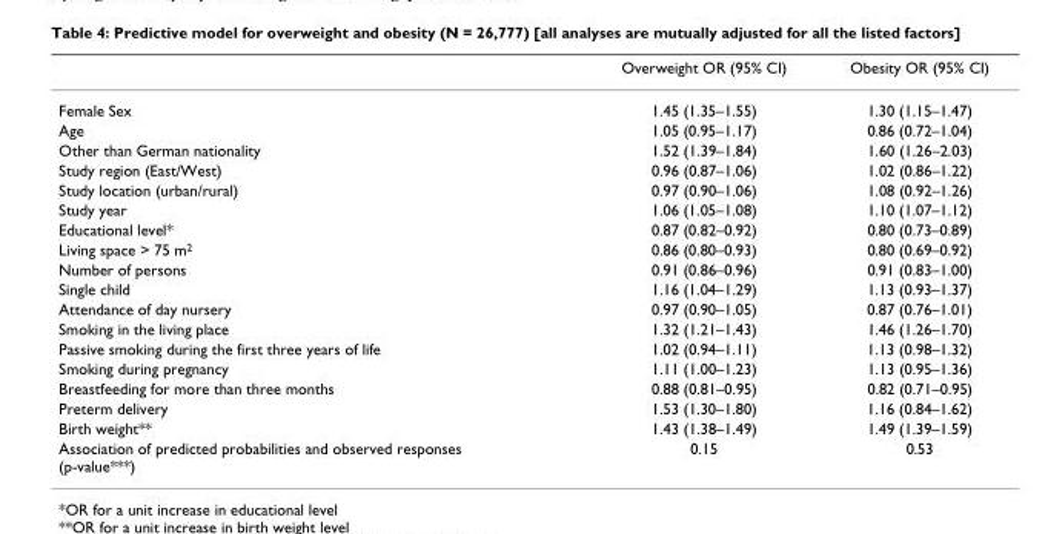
<table><thead><tr><td></td><td>Overweight OR (95% CI)</td><td>Obesity OR (95% CI)</td></tr></thead><tbody><tr><td>Female Sex</td><td>1.45 (1.35–1.55)</td><td>1.30 (1.15–1.47)</td></tr><tr><td>Age</td><td>1.05 (0.95–1.17)</td><td>0.86 (0.72–1.04)</td></tr><tr><td>Other than German nationality</td><td>1.52 (1.39–1.84)</td><td>1.60 (1.26–2.03)</td></tr><tr><td>Study region (East/West)</td><td>0.96 (0.87–1.06)</td><td>1.02 (0.86–1.22)</td></tr><tr><td>Study location (urban/rural)</td><td>0.97 (0.90–1.06)</td><td>1.08 (0.92–1.26)</td></tr><tr><td>Study year</td><td>1.06 (1.05–1.08)</td><td>1.10 (1.07–1.12)</td></tr><tr><td>Educational level*</td><td>0.87 (0.82–0.92)</td><td>0.80 (0.73–0.89)</td></tr><tr><td>Living space &gt; 75 m<sup>2</sup></td><td>0.86 (0.80–0.93)</td><td>0.80 (0.69–0.92)</td></tr><tr><td>Number of persons</td><td>0.91 (0.86–0.96)</td><td>0.91 (0.83–1.00)</td></tr><tr><td>Single child</td><td>1.16 (1.04–1.29)</td><td>1.13 (0.93–1.37)</td></tr><tr><td>Attendance of day nursery</td><td>0.97 (0.90–1.05)</td><td>0.87 (0.76–1.01)</td></tr><tr><td>Smoking in the living place</td><td>1.32 (1.21–1.43)</td><td>1.46 (1.26–1.70)</td></tr><tr><td>Passive smoking during the first three years of life</td><td>1.02 (0.94–1.11)</td><td>1.13 (0.98–1.32)</td></tr><tr><td>Smoking during pregnancy</td><td>1.11 (1.00–1.23)</td><td>1.13 (0.95–1.36)</td></tr><tr><td>Breastfeeding for more than three months</td><td>0.88 (0.81–0.95)</td><td>0.82 (0.71–0.95)</td></tr><tr><td>Preterm delivery</td><td>1.53 (1.30–1.80)</td><td>1.16 (0.84–1.62)</td></tr><tr><td>Birth weight**</td><td>1.43 (1.38–1.49)</td><td>1.49 (1.39–1.59)</td></tr><tr><td>Association of predicted probabilities and observed responses (p-value***)</td><td>0.15</td><td>0.53</td></tr></tbody></table>